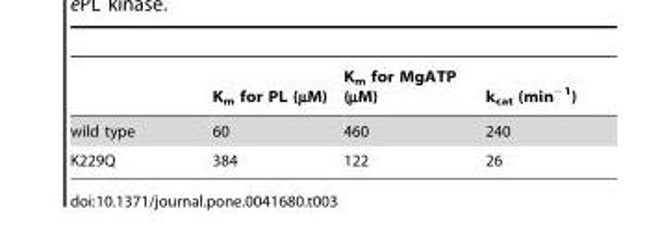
<table><thead><tr><td></td><td>K<sub>m</sub> for PL (µM)</td><td>K<sub>m</sub> for MgATP (µM)</td><td>k<sub>cat</sub> (min<sup>−1</sup>)</td></tr></thead><tbody><tr><td>wild type</td><td>60</td><td>460</td><td>240</td></tr><tr><td>K229Q</td><td>384</td><td>122</td><td>26</td></tr></tbody></table>